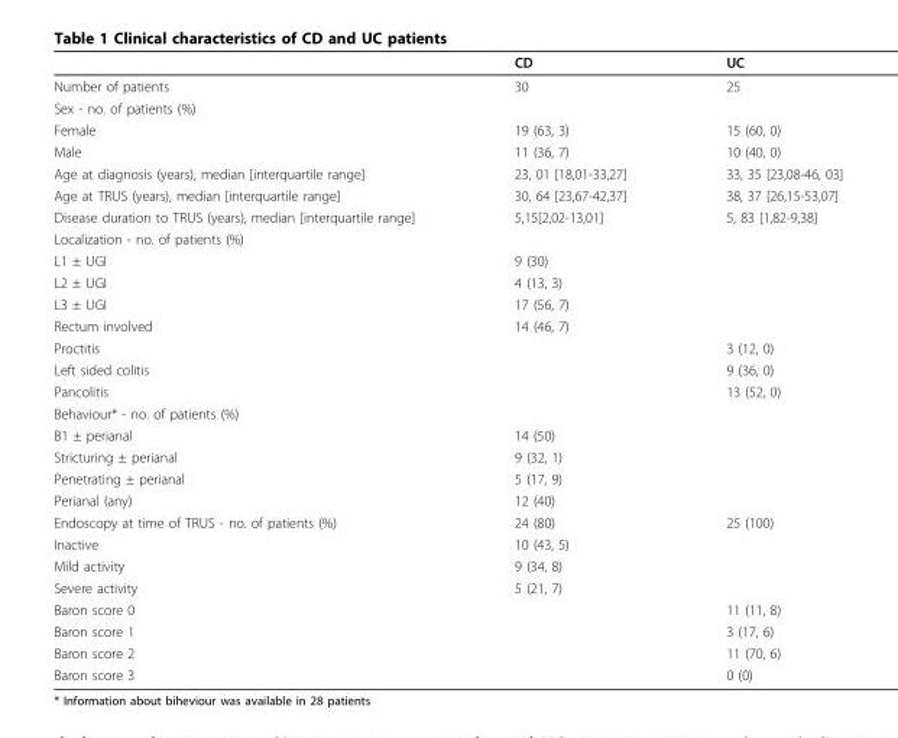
<table><thead><tr><td></td><td>CD</td><td>UC</td></tr></thead><tbody><tr><td>Number of patients</td><td>30</td><td>25</td></tr><tr><td colspan="3">Sex - no. of patients (%)</td></tr><tr><td>Female</td><td>19 (63, 3)</td><td>15 (60, 0)</td></tr><tr><td>Male</td><td>11 (36, 7)</td><td>10 (40, 0)</td></tr><tr><td>Age at diagnosis (years), median [interquartile range]</td><td>23, 01 [18,01-33,27]</td><td>33, 35 [23,08-46, 03]</td></tr><tr><td>Age at TRUS (years), median [interquartile range]</td><td>30, 64 [23,67-42,37]</td><td>38, 37 [26,15-53,07]</td></tr><tr><td>Disease duration to TRUS (years), median [interquartile range]</td><td>5,15[2,02-13,01]</td><td>5, 83 [1,82-9,38]</td></tr><tr><td colspan="3">Localization - no. of patients (%)</td></tr><tr><td>L1 ± UGI</td><td>9 (30)</td><td></td></tr><tr><td>L2 ± UGI</td><td>4 (13, 3)</td><td></td></tr><tr><td>L3 ± UGI</td><td>17 (56, 7)</td><td></td></tr><tr><td>Rectum involved</td><td>14 (46, 7)</td><td></td></tr><tr><td>Proctitis</td><td></td><td>3 (12, 0)</td></tr><tr><td>Left sided colitis</td><td></td><td>9 (36, 0)</td></tr><tr><td>Pancolitis</td><td></td><td>13 (52, 0)</td></tr><tr><td colspan="3">Behaviour* - no. of patients (%)</td></tr><tr><td>B1 ± perianal</td><td>14 (50)</td><td></td></tr><tr><td>Stricturing ± perianal</td><td>9 (32, 1)</td><td></td></tr><tr><td>Penetrating ± perianal</td><td>5 (17, 9)</td><td></td></tr><tr><td>Perianal (any)</td><td>12 (40)</td><td></td></tr><tr><td>Endoscopy at time of TRUS - no. of patients (%)</td><td>24 (80)</td><td>25 (100)</td></tr><tr><td>Inactive</td><td>10 (43, 5)</td><td></td></tr><tr><td>Mild activity</td><td>9 (34, 8)</td><td></td></tr><tr><td>Severe activity</td><td>5 (21, 7)</td><td></td></tr><tr><td>Baron score 0</td><td></td><td>11 (11, 8)</td></tr><tr><td>Baron score 1</td><td></td><td>3 (17, 6)</td></tr><tr><td>Baron score 2</td><td></td><td>11 (70, 6)</td></tr><tr><td>Baron score 3</td><td></td><td>0 (0)</td></tr></tbody></table>